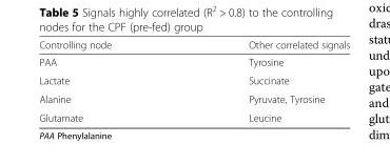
<table><thead><tr><td>Controlling node</td><td>Other correlated signals</td></tr></thead><tbody><tr><td>PAA</td><td>Tyrosine</td></tr><tr><td>Lactate</td><td>Succinate</td></tr><tr><td>Alanine</td><td>Pyruvate, Tyrosine</td></tr><tr><td>Glutamate</td><td>Leucine</td></tr></tbody></table>